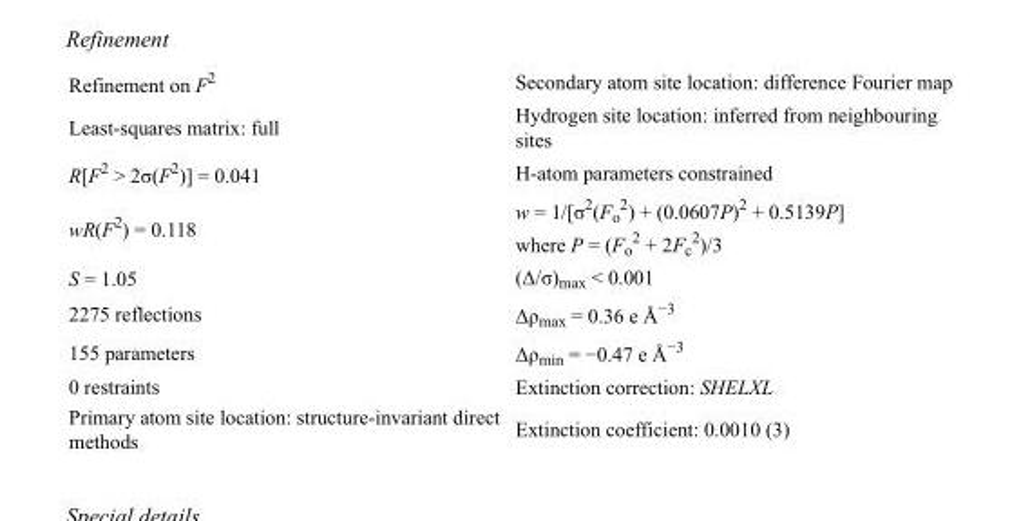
<table><tbody><tr><td>Refinement on F<sup>2</sup></td><td>Secondary atom site location: difference Fourier map</td></tr><tr><td>Least-squares matrix: full</td><td>Hydrogen site location: inferred from neighbouring sites</td></tr><tr><td>R[F<sup>2</sup> &gt; 2σ(F<sup>2</sup>)] = 0.041</td><td>H-atom parameters constrained</td></tr><tr><td>wR(F<sup>2</sup>) = 0.118</td><td>w = 1/[σ<sup>2</sup>(F<sub>o</sub> <sup>2</sup>) + (0.0607P)<sup>2</sup> + 0.5139P] where P = (F<sub>o</sub> <sup>2</sup> + 2F<sub>c</sub> <sup>2</sup>)/3</td></tr><tr><td>S = 1.05</td><td>(Δ/σ)<sub>max</sub> &lt; 0.001</td></tr><tr><td>2275 reflections</td><td>Δρ<sub>max</sub> = 0.36 e Å<sup>−3</sup></td></tr><tr><td>155 parameters</td><td>Δρ<sub>min</sub> = −0.47 e Å<sup>−3</sup></td></tr><tr><td>0 restraints</td><td>Extinction correction: SHELXL</td></tr><tr><td>Primary atom site location: structure-invariant direct methods</td><td>Extinction coefficient: 0.0010 (3)</td></tr></tbody></table>